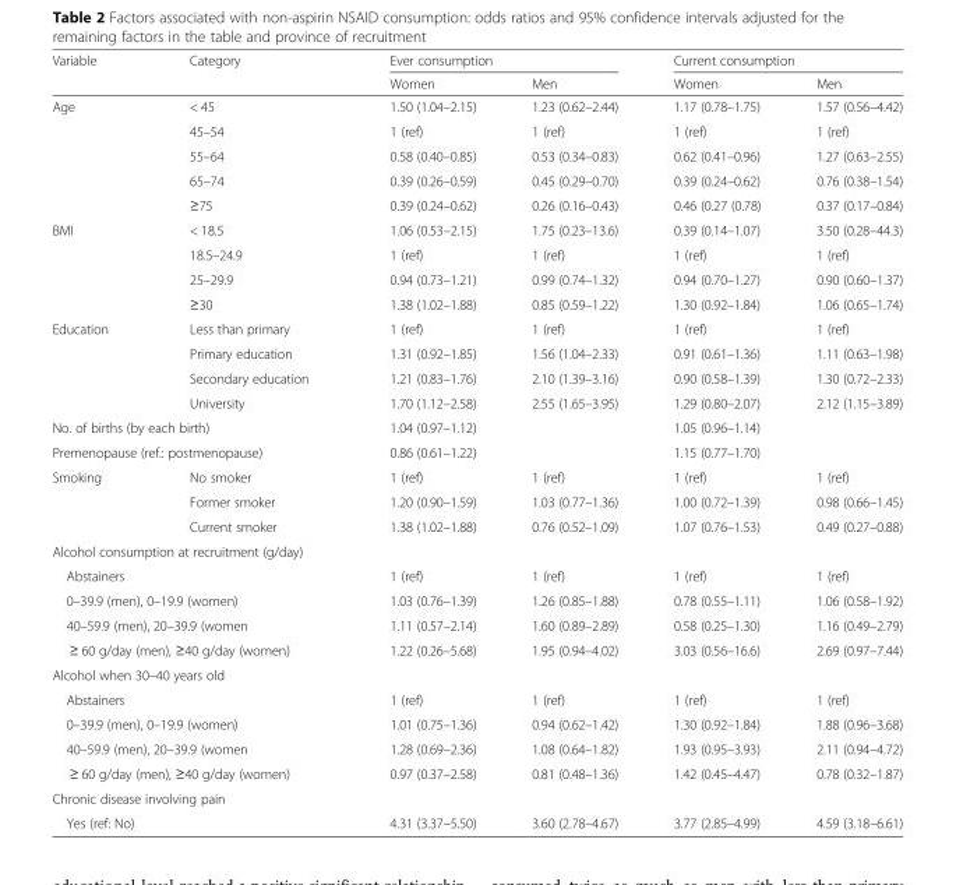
<table><thead><tr><td rowspan="2">Variable</td><td rowspan="2">Category</td><td colspan="2">Ever consumption</td><td colspan="2">Current consumption</td></tr><tr><td>Women</td><td>Men</td><td>Women</td><td>Men</td></tr></thead><tbody><tr><td rowspan="5">Age</td><td>&lt; 45</td><td>1.50 (1.04–2.15)</td><td>1.23 (0.62–2.44)</td><td>1.17 (0.78–1.75)</td><td>1.57 (0.56–4.42)</td></tr><tr><td>45–54</td><td>1 (ref)</td><td>1 (ref)</td><td>1 (ref)</td><td>1 (ref)</td></tr><tr><td>55–64</td><td>0.58 (0.40–0.85)</td><td>0.53 (0.34–0.83)</td><td>0.62 (0.41–0.96)</td><td>1.27 (0.63–2.55)</td></tr><tr><td>65–74</td><td>0.39 (0.26–0.59)</td><td>0.45 (0.29–0.70)</td><td>0.39 (0.24–0.62)</td><td>0.76 (0.38–1.54)</td></tr><tr><td>≥75</td><td>0.39 (0.24–0.62)</td><td>0.26 (0.16–0.43)</td><td>0.46 (0.27 (0.78)</td><td>0.37 (0.17–0.84)</td></tr><tr><td rowspan="4">BMI</td><td>&lt; 18.5</td><td>1.06 (0.53–2.15)</td><td>1.75 (0.23–13.6)</td><td>0.39 (0.14–1.07)</td><td>3.50 (0.28–44.3)</td></tr><tr><td>18.5–24.9</td><td>1 (ref)</td><td>1 (ref)</td><td>1 (ref)</td><td>1 (ref)</td></tr><tr><td>25–29.9</td><td>0.94 (0.73–1.21)</td><td>0.99 (0.74–1.32)</td><td>0.94 (0.70–1.27)</td><td>0.90 (0.60–1.37)</td></tr><tr><td>≥30</td><td>1.38 (1.02–1.88)</td><td>0.85 (0.59–1.22)</td><td>1.30 (0.92–1.84)</td><td>1.06 (0.65–1.74)</td></tr><tr><td rowspan="4">Education</td><td>Less than primary</td><td>1 (ref)</td><td>1 (ref)</td><td>1 (ref)</td><td>1 (ref)</td></tr><tr><td>Primary education</td><td>1.31 (0.92–1.85)</td><td>1.56 (1.04–2.33)</td><td>0.91 (0.61–1.36)</td><td>1.11 (0.63–1.98)</td></tr><tr><td>Secondary education</td><td>1.21 (0.83–1.76)</td><td>2.10 (1.39–3.16)</td><td>0.90 (0.58–1.39)</td><td>1.30 (0.72–2.33)</td></tr><tr><td>University</td><td>1.70 (1.12–2.58)</td><td>2.55 (1.65–3.95)</td><td>1.29 (0.80–2.07)</td><td>2.12 (1.15–3.89)</td></tr><tr><td colspan="2">No. of births (by each birth)</td><td>1.04 (0.97–1.12)</td><td></td><td>1.05 (0.96–1.14)</td><td></td></tr><tr><td colspan="2">Premenopause (ref.: postmenopause)</td><td>0.86 (0.61–1.22)</td><td></td><td>1.15 (0.77–1.70)</td><td></td></tr><tr><td rowspan="3">Smoking</td><td>No smoker</td><td>1 (ref)</td><td>1 (ref)</td><td>1 (ref)</td><td>1 (ref)</td></tr><tr><td>Former smoker</td><td>1.20 (0.90–1.59)</td><td>1.03 (0.77–1.36)</td><td>1.00 (0.72–1.39)</td><td>0.98 (0.66–1.45)</td></tr><tr><td>Current smoker</td><td>1.38 (1.02–1.88)</td><td>0.76 (0.52–1.09)</td><td>1.07 (0.76–1.53)</td><td>0.49 (0.27–0.88)</td></tr><tr><td colspan="6">Alcohol consumption at recruitment (g/day)</td></tr><tr><td colspan="2">Abstainers</td><td>1 (ref)</td><td>1 (ref)</td><td>1 (ref)</td><td>1 (ref)</td></tr><tr><td colspan="2">0–39.9 (men), 0–19.9 (women)</td><td>1.03 (0.76–1.39)</td><td>1.26 (0.85–1.88)</td><td>0.78 (0.55–1.11)</td><td>1.06 (0.58–1.92)</td></tr><tr><td colspan="2">40–59.9 (men), 20–39.9 (women</td><td>1.11 (0.57–2.14)</td><td>1.60 (0.89–2.89)</td><td>0.58 (0.25–1.30)</td><td>1.16 (0.49–2.79)</td></tr><tr><td colspan="2">≥ 60 g/day (men), ≥40 g/day (women)</td><td>1.22 (0.26–5.68)</td><td>1.95 (0.94–4.02)</td><td>3.03 (0.56–16.6)</td><td>2.69 (0.97–7.44)</td></tr><tr><td colspan="6">Alcohol when 30–40 years old</td></tr><tr><td colspan="2">Abstainers</td><td>1 (ref)</td><td>1 (ref)</td><td>1 (ref)</td><td>1 (ref)</td></tr><tr><td colspan="2">0–39.9 (men), 0–19.9 (women)</td><td>1.01 (0.75–1.36)</td><td>0.94 (0.62–1.42)</td><td>1.30 (0.92–1.84)</td><td>1.88 (0.96–3.68)</td></tr><tr><td colspan="2">40–59.9 (men), 20–39.9 (women</td><td>1.28 (0.69–2.36)</td><td>1.08 (0.64–1.82)</td><td>1.93 (0.95–3.93)</td><td>2.11 (0.94–4.72)</td></tr><tr><td colspan="2">≥ 60 g/day (men), ≥40 g/day (women)</td><td>0.97 (0.37–2.58)</td><td>0.81 (0.48–1.36)</td><td>1.42 (0.45–4.47)</td><td>0.78 (0.32–1.87)</td></tr><tr><td colspan="6">Chronic disease involving pain</td></tr><tr><td colspan="2">Yes (ref: No)</td><td>4.31 (3.37–5.50)</td><td>3.60 (2.78–4.67)</td><td>3.77 (2.85–4.99)</td><td>4.59 (3.18–6.61)</td></tr></tbody></table>